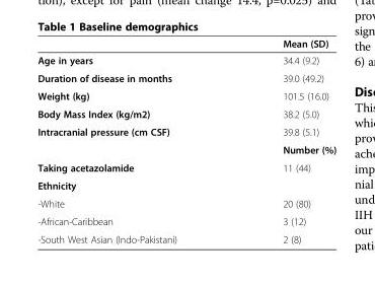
<table><thead><tr><td></td><td>Mean (SD)</td></tr></thead><tbody><tr><td>Age in years</td><td>34.4 (9.2)</td></tr><tr><td>Duration of disease in months</td><td>39.0 (49.2)</td></tr><tr><td>Weight (kg)</td><td>101.5 (16.0)</td></tr><tr><td>Body Mass Index (kg/m2)</td><td>38.2 (5.0)</td></tr><tr><td rowspan="2">Intracranial pressure (cm CSF)</td><td>39.8 (5.1)</td></tr><tr><td>Number (%)</td></tr><tr><td>Taking acetazolamide</td><td>11 (44)</td></tr><tr><td colspan="2">Ethnicity</td></tr><tr><td>-White</td><td>20 (80)</td></tr><tr><td>-African-Caribbean</td><td>3 (12)</td></tr><tr><td>-South West Asian (Indo-Pakistani)</td><td>2 (8)</td></tr></tbody></table>